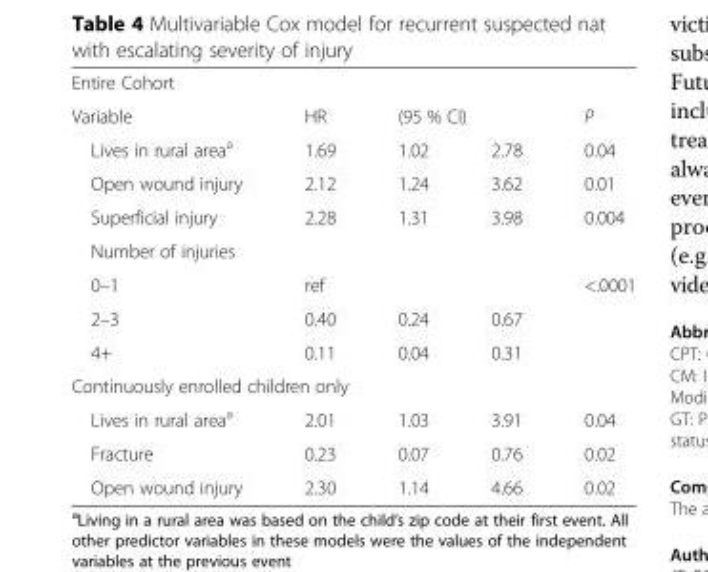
<table><tbody><tr><td colspan="5">Entire Cohort</td></tr><tr><td>Variable</td><td>HR</td><td colspan="2">(95 % CI)</td><td>P</td></tr><tr><td>Lives in rural area<sup>a</sup></td><td>1.69</td><td>1.02</td><td>2.78</td><td>0.04</td></tr><tr><td>Open wound injury</td><td>2.12</td><td>1.24</td><td>3.62</td><td>0.01</td></tr><tr><td>Superficial injury</td><td>2.28</td><td>1.31</td><td>3.98</td><td>0.004</td></tr><tr><td colspan="5">Number of injuries</td></tr><tr><td>0–1</td><td>ref</td><td></td><td></td><td>&lt;.0001</td></tr><tr><td>2–3</td><td>0.40</td><td>0.24</td><td>0.67</td><td></td></tr><tr><td>4+</td><td>0.11</td><td>0.04</td><td>0.31</td><td></td></tr><tr><td colspan="5">Continuously enrolled children only</td></tr><tr><td>Lives in rural area<sup>a</sup></td><td>2.01</td><td>1.03</td><td>3.91</td><td>0.04</td></tr><tr><td>Fracture</td><td>0.23</td><td>0.07</td><td>0.76</td><td>0.02</td></tr><tr><td>Open wound injury</td><td>2.30</td><td>1.14</td><td>4.66</td><td>0.02</td></tr></tbody></table>